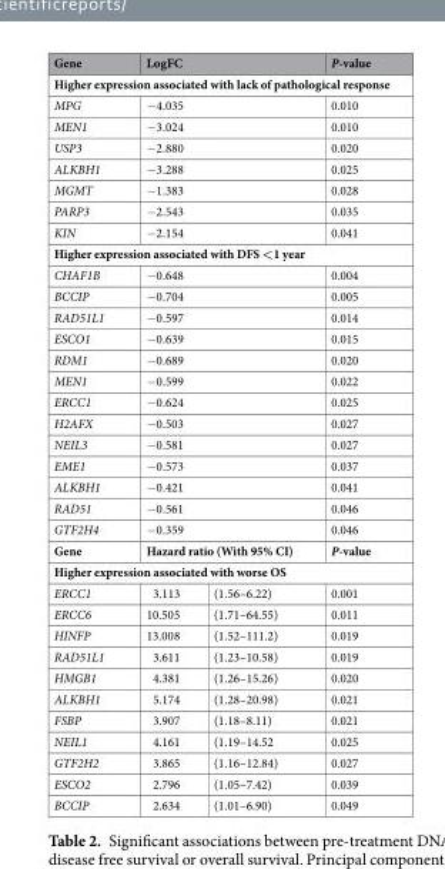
<table><thead><tr><td>Gene</td><td colspan="2">LogFC</td><td>P-value</td></tr></thead><tbody><tr><td colspan="4">Higher expression associated with lack of pathological response</td></tr><tr><td>MPG</td><td colspan="2">−4.035</td><td>0.010</td></tr><tr><td>MEN1</td><td colspan="2">−3.024</td><td>0.010</td></tr><tr><td>USP3</td><td colspan="2">−2.880</td><td>0.020</td></tr><tr><td>ALKBH1</td><td colspan="2">−3.288</td><td>0.025</td></tr><tr><td>MGMT</td><td colspan="2">−1.383</td><td>0.028</td></tr><tr><td>PARP3</td><td colspan="2">−2.543</td><td>0.035</td></tr><tr><td>KIN</td><td colspan="2">−2.154</td><td>0.041</td></tr><tr><td colspan="4">Higher expression associated with DFS &lt;1 year</td></tr><tr><td>CHAF1B</td><td colspan="2">−0.648</td><td>0.004</td></tr><tr><td>BCCIP</td><td colspan="2">−0.704</td><td>0.005</td></tr><tr><td>RAD51L1</td><td colspan="2">−0.597</td><td>0.014</td></tr><tr><td>ESCO1</td><td colspan="2">−0.639</td><td>0.015</td></tr><tr><td>RDM1</td><td colspan="2">−0.689</td><td>0.020</td></tr><tr><td>MEN1</td><td colspan="2">−0.599</td><td>0.022</td></tr><tr><td>ERCC1</td><td colspan="2">−0.624</td><td>0.025</td></tr><tr><td>H2AFX</td><td colspan="2">−0.503</td><td>0.027</td></tr><tr><td>NEIL3</td><td colspan="2">−0.581</td><td>0.027</td></tr><tr><td>EME1</td><td colspan="2">−0.573</td><td>0.037</td></tr><tr><td>ALKBH1</td><td colspan="2">−0.421</td><td>0.041</td></tr><tr><td>RAD51</td><td colspan="2">−0.561</td><td>0.046</td></tr><tr><td>GTF2H4</td><td colspan="2">−0.359</td><td>0.046</td></tr><tr><td>Gene</td><td colspan="2">Hazard ratio (With 95% CI)</td><td>P-value</td></tr><tr><td colspan="4">Higher expression associated with worse OS</td></tr><tr><td>ERCC1</td><td>3.113</td><td>(1.56–6.22)</td><td>0.001</td></tr><tr><td>ERCC6</td><td>10.505</td><td>(1.71–64.55)</td><td>0.011</td></tr><tr><td>HINFP</td><td>13.008</td><td>(1.52–111.2)</td><td>0.019</td></tr><tr><td>RAD51L1</td><td>3.611</td><td>(1.23–10.58)</td><td>0.019</td></tr><tr><td>HMGB1</td><td>4.381</td><td>(1.26–15.26)</td><td>0.020</td></tr><tr><td>ALKBH1</td><td>5.174</td><td>(1.28–20.98)</td><td>0.021</td></tr><tr><td>FSBP</td><td>3.907</td><td>(1.18–8.11)</td><td>0.021</td></tr><tr><td>NEIL1</td><td>4.161</td><td>(1.19–14.52</td><td>0.025</td></tr><tr><td>GTF2H2</td><td>3.865</td><td>(1.16–12.84)</td><td>0.027</td></tr><tr><td>ESCO2</td><td>2.796</td><td>(1.05–7.42)</td><td>0.039</td></tr><tr><td>BCCIP</td><td>2.634</td><td>(1.01–6.90)</td><td>0.049</td></tr></tbody></table>